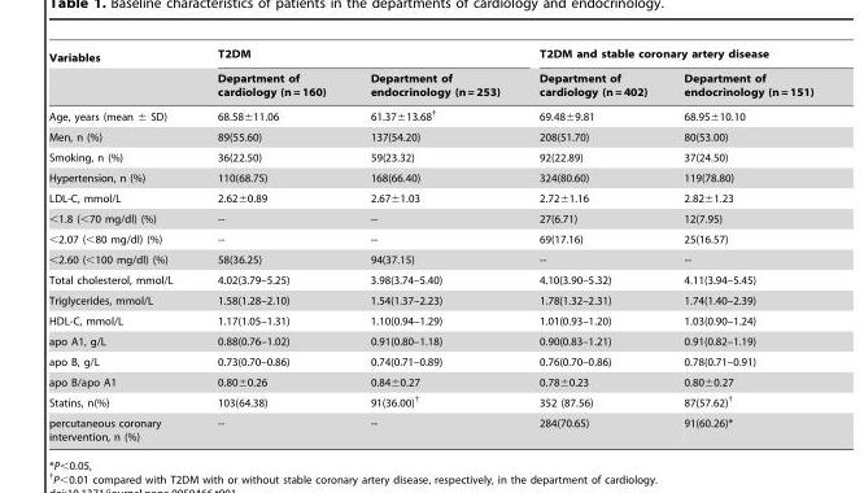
<table><thead><tr><td rowspan="2">Variables</td><td colspan="2">T2DM</td><td colspan="2">T2DM and stable coronary artery disease</td></tr><tr><td>Department of cardiology (n = 160)</td><td>Department of endocrinology (n = 253)</td><td>Department of cardiology (n = 402)</td><td>Department of endocrinology (n = 151)</td></tr></thead><tbody><tr><td>Age, years (mean ± SD)</td><td>68.58±11.06</td><td>61.37±13.68†</td><td>69.48±9.81</td><td>68.95±10.10</td></tr><tr><td>Men, n (%)</td><td>89(55.60)</td><td>137(54.20)</td><td>208(51.70)</td><td>80(53.00)</td></tr><tr><td>Smoking, n (%)</td><td>36(22.50)</td><td>59(23.32)</td><td>92(22.89)</td><td>37(24.50)</td></tr><tr><td>Hypertension, n (%)</td><td>110(68.75)</td><td>168(66.40)</td><td>324(80.60)</td><td>119(78.80)</td></tr><tr><td>LDL-C, mmol/L</td><td>2.62±0.89</td><td>2.67±1.03</td><td>2.72±1.16</td><td>2.82±1.23</td></tr><tr><td>&lt;1.8 (&lt;70 mg/dl) (%)</td><td>--</td><td>--</td><td>27(6.71)</td><td>12(7.95)</td></tr><tr><td>&lt;2.07 (&lt;80 mg/dl) (%)</td><td>--</td><td>--</td><td>69(17.16)</td><td>25(16.57)</td></tr><tr><td>&lt;2.60 (&lt;100 mg/dl) (%)</td><td>58(36.25)</td><td>94(37.15)</td><td>--</td><td>--</td></tr><tr><td>Total cholesterol, mmol/L</td><td>4.02(3.79–5.25)</td><td>3.98(3.74–5.40)</td><td>4.10(3.90–5.32)</td><td>4.11(3.94–5.45)</td></tr><tr><td>Triglycerides, mmol/L</td><td>1.58(1.28–2.10)</td><td>1.54(1.37–2.23)</td><td>1.78(1.32–2.31)</td><td>1.74(1.40–2.39)</td></tr><tr><td>HDL-C, mmol/L</td><td>1.17(1.05–1.31)</td><td>1.10(0.94–1.29)</td><td>1.01(0.93–1.20)</td><td>1.03(0.90–1.24)</td></tr><tr><td>apo A1, g/L</td><td>0.88(0.76–1.02)</td><td>0.91(0.80–1.18)</td><td>0.90(0.83–1.21)</td><td>0.91(0.82–1.19)</td></tr><tr><td>apo B, g/L</td><td>0.73(0.70–0.86)</td><td>0.74(0.71–0.89)</td><td>0.76(0.70–0.86)</td><td>0.78(0.71–0.91)</td></tr><tr><td>apo B/apo A1</td><td>0.80±0.26</td><td>0.84±0.27</td><td>0.78±0.23</td><td>0.80±0.27</td></tr><tr><td>Statins, n(%)</td><td>103(64.38)</td><td>91(36.00)†</td><td>352 (87.56)</td><td>87(57.62)†</td></tr><tr><td>percutaneous coronary intervention, n (%)</td><td>--</td><td>--</td><td>284(70.65)</td><td>91(60.26)*</td></tr></tbody></table>